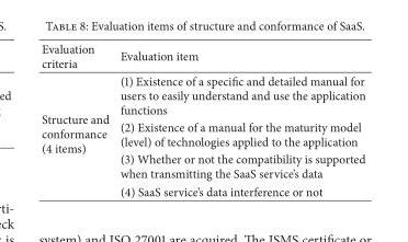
<table><thead><tr><td>Evaluation criteria</td><td>Evaluation item</td></tr></thead><tbody><tr><td rowspan="4">Structure and conformance (4 items)</td><td>(1) Existence of a specific and detailed manual for users to easily understand and use the application functions</td></tr><tr><td>(2) Existence of a manual for the maturity model (level) of technologies applied to the application</td></tr><tr><td>(3) Whether or not the compatibility is supported when transmitting the SaaS service’s data</td></tr><tr><td>(4) SaaS service’s data interference or not</td></tr></tbody></table>